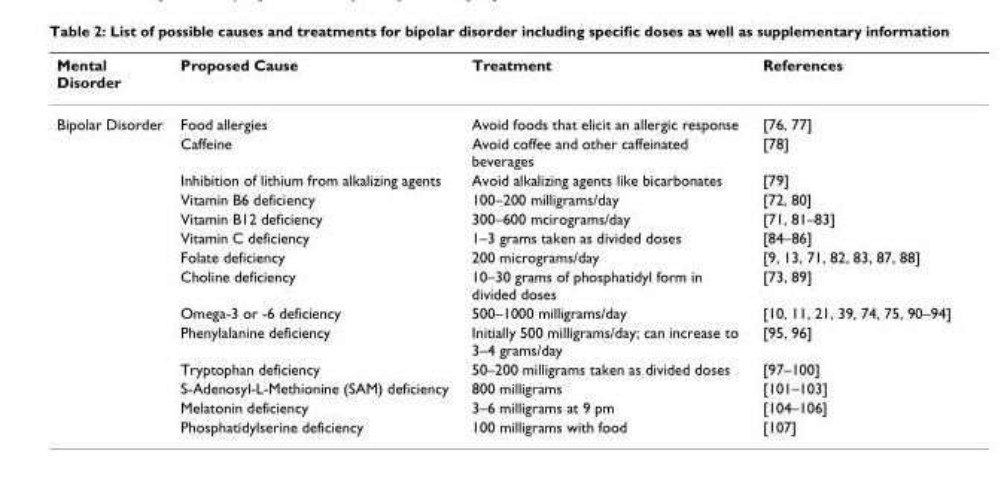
<table><thead><tr><td>Mental Disorder</td><td>Proposed Cause</td><td>Treatment</td><td>References</td></tr></thead><tbody><tr><td rowspan="14">Bipolar Disorder</td><td>Food allergies</td><td>Avoid foods that elicit an allergic response</td><td>[76, 77]</td></tr><tr><td>Caffeine</td><td>Avoid coffee and other caffeinated beverages</td><td>[78]</td></tr><tr><td>Inhibition of lithium from alkalizing agents</td><td>Avoid alkalizing agents like bicarbonates</td><td>[79]</td></tr><tr><td>Vitamin B6 deficiency</td><td>100–200 milligrams/day</td><td>[72, 80]</td></tr><tr><td>Vitamin B12 deficiency</td><td>300–600 mcirograms/day</td><td>[71, 81–83]</td></tr><tr><td>Vitamin C deficiency</td><td>1–3 grams taken as divided doses</td><td>[84–86]</td></tr><tr><td>Folate deficiency</td><td>200 micrograms/day</td><td>[9, 13, 71, 82, 83, 87, 88]</td></tr><tr><td>Choline deficiency</td><td>10–30 grams of phosphatidyl form in divided doses</td><td>[73, 89]</td></tr><tr><td>Omega-3 or -6 deficiency</td><td>500–1000 milligrams/day</td><td>[10, 11, 21, 39, 74, 75, 90–94]</td></tr><tr><td>Phenylalanine deficiency</td><td>Initially 500 milligrams/day; can increase to 3–4 grams/day</td><td>[95, 96]</td></tr><tr><td>Tryptophan deficiency</td><td>50–200 milligrams taken as divided doses</td><td>[97–100]</td></tr><tr><td>S-Adenosyl-L-Methionine (SAM) deficiency</td><td>800 milligrams</td><td>[101–103]</td></tr><tr><td>Melatonin deficiency</td><td>3–6 milligrams at 9 pm</td><td>[104–106]</td></tr><tr><td>Phosphatidylserine deficiency</td><td>100 milligrams with food</td><td>[107]</td></tr></tbody></table>